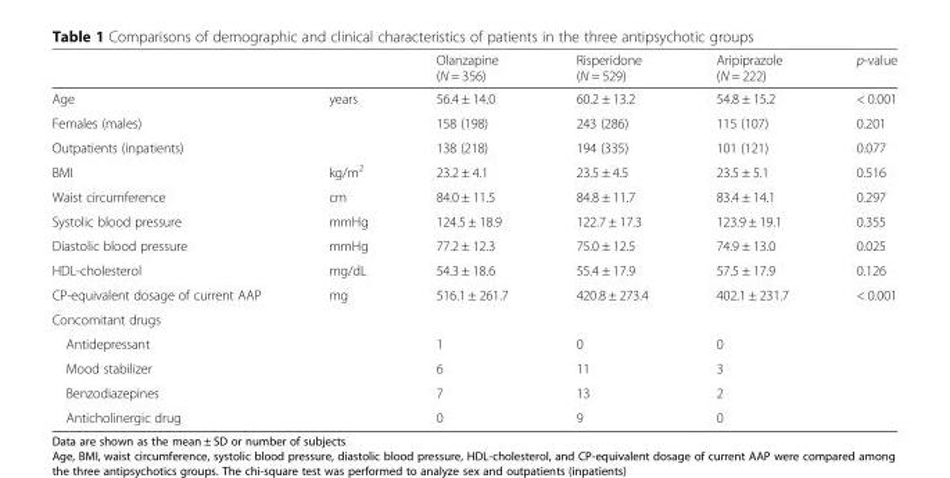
<table><thead><tr><td></td><td></td><td>Olanzapine (N = 356)</td><td>Risperidone (N = 529)</td><td>Aripiprazole (N = 222)</td><td>p-value</td></tr></thead><tbody><tr><td>Age</td><td>years</td><td>56.4 ± 14.0</td><td>60.2 ± 13.2</td><td>54.8 ± 15.2</td><td>&lt; 0.001</td></tr><tr><td>Females (males)</td><td></td><td>158 (198)</td><td>243 (286)</td><td>115 (107)</td><td>0.201</td></tr><tr><td>Outpatients (inpatients)</td><td></td><td>138 (218)</td><td>194 (335)</td><td>101 (121)</td><td>0.077</td></tr><tr><td>BMI</td><td>kg/m<sup>2</sup></td><td>23.2 ± 4.1</td><td>23.5 ± 4.5</td><td>23.5 ± 5.1</td><td>0.516</td></tr><tr><td>Waist circumference</td><td>cm</td><td>84.0 ± 11.5</td><td>84.8 ± 11.7</td><td>83.4 ± 14.1</td><td>0.297</td></tr><tr><td>Systolic blood pressure</td><td>mmHg</td><td>124.5 ± 18.9</td><td>122.7 ± 17.3</td><td>123.9 ± 19.1</td><td>0.355</td></tr><tr><td>Diastolic blood pressure</td><td>mmHg</td><td>77.2 ± 12.3</td><td>75.0 ± 12.5</td><td>74.9 ± 13.0</td><td>0.025</td></tr><tr><td>HDL-cholesterol</td><td>mg/dL</td><td>54.3 ± 18.6</td><td>55.4 ± 17.9</td><td>57.5 ± 17.9</td><td>0.126</td></tr><tr><td>CP-equivalent dosage of current AAP</td><td>mg</td><td>516.1 ± 261.7</td><td>420.8 ± 273.4</td><td>402.1 ± 231.7</td><td>&lt; 0.001</td></tr><tr><td colspan="6">Concomitant drugs</td></tr><tr><td>Antidepressant</td><td></td><td>1</td><td>0</td><td>0</td><td></td></tr><tr><td>Mood stabilizer</td><td></td><td>6</td><td>11</td><td>3</td><td></td></tr><tr><td>Benzodiazepines</td><td></td><td>7</td><td>13</td><td>2</td><td></td></tr><tr><td>Anticholinergic drug</td><td></td><td>0</td><td>9</td><td>0</td><td></td></tr></tbody></table>